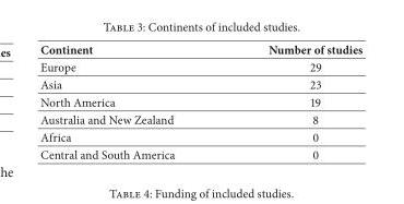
<table><thead><tr><td>Continent</td><td>Number of studies</td></tr></thead><tbody><tr><td>Europe</td><td>29</td></tr><tr><td>Asia</td><td>23</td></tr><tr><td>North America</td><td>19</td></tr><tr><td>Australia and New Zealand</td><td>8</td></tr><tr><td>Africa</td><td>0</td></tr><tr><td>Central and South America</td><td>0</td></tr></tbody></table>